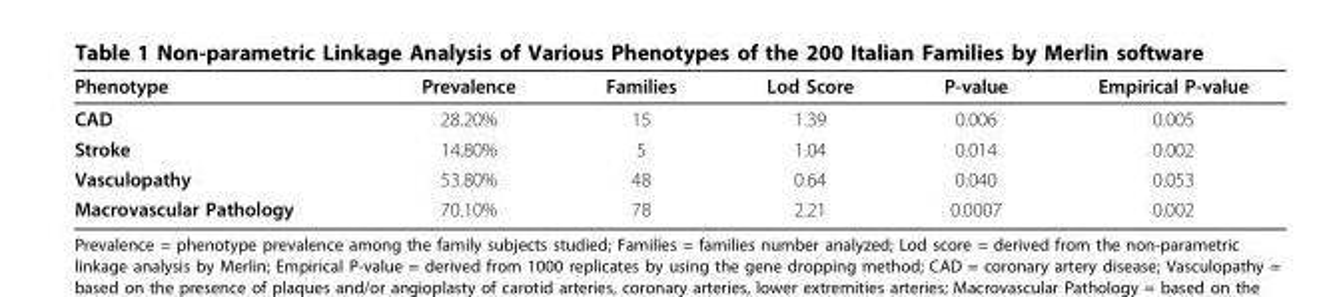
<table><thead><tr><td>Phenotype</td><td>Prevalence</td><td>Families</td><td>Lod Score</td><td>P-value</td><td>Empirical P-value</td></tr></thead><tbody><tr><td>CAD</td><td>28.20%</td><td>15</td><td>1.39</td><td>0.006</td><td>0.005</td></tr><tr><td>Stroke</td><td>14.80%</td><td>5</td><td>1.04</td><td>0.014</td><td>0.002</td></tr><tr><td>Vasculopathy</td><td>53.80%</td><td>48</td><td>0.64</td><td>0.040</td><td>0.053</td></tr><tr><td>Macrovascular Pathology</td><td>70.10%</td><td>78</td><td>2.21</td><td>0.0007</td><td>0.002</td></tr></tbody></table>